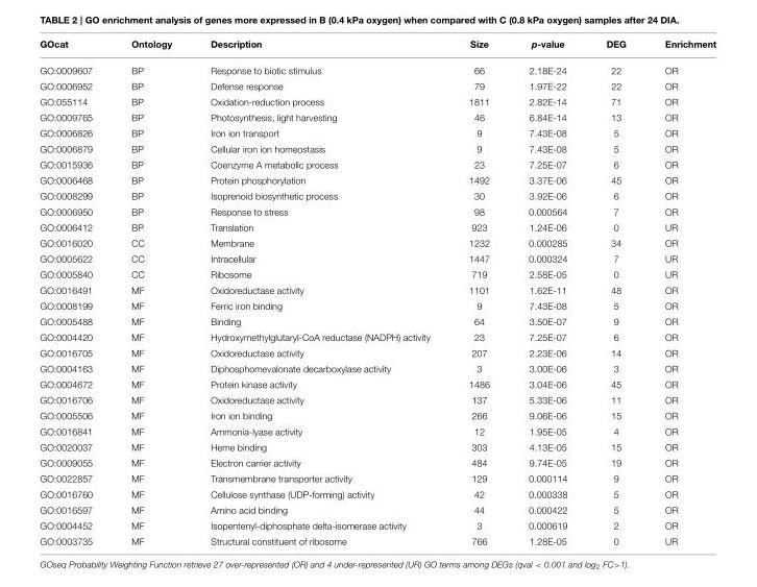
<table><thead><tr><td>GOcat</td><td>Ontology</td><td>Description</td><td>Size</td><td>p-value</td><td>DEG</td><td>Enrichment</td></tr></thead><tbody><tr><td>GO:0009607</td><td>BP</td><td>Response to biotic stimulus</td><td>66</td><td>2.18E-24</td><td>22</td><td>OR</td></tr><tr><td>GO:0006952</td><td>BP</td><td>Defense response</td><td>79</td><td>1.97E-22</td><td>22</td><td>OR</td></tr><tr><td>GO:055114</td><td>BP</td><td>Oxidation-reduction process</td><td>1811</td><td>2.82E-14</td><td>71</td><td>OR</td></tr><tr><td>GO:0009765</td><td>BP</td><td>Photosynthesis, light harvesting</td><td>46</td><td>6.84E-14</td><td>13</td><td>OR</td></tr><tr><td>GO:0006826</td><td>BP</td><td>Iron ion transport</td><td>9</td><td>7.43E-08</td><td>5</td><td>OR</td></tr><tr><td>GO:0006879</td><td>BP</td><td>Cellular iron ion homeostasis</td><td>9</td><td>7.43E-08</td><td>5</td><td>OR</td></tr><tr><td>GO:0015936</td><td>BP</td><td>Coenzyme A metabolic process</td><td>23</td><td>7.25E-07</td><td>6</td><td>OR</td></tr><tr><td>GO:0006468</td><td>BP</td><td>Protein phosphorylation</td><td>1492</td><td>3.37E-06</td><td>45</td><td>OR</td></tr><tr><td>GO:0008299</td><td>BP</td><td>Isoprenoid biosynthetic process</td><td>30</td><td>3.92E-06</td><td>6</td><td>OR</td></tr><tr><td>GO:0006950</td><td>BP</td><td>Response to stress</td><td>98</td><td>0.000564</td><td>7</td><td>OR</td></tr><tr><td>GO:0006412</td><td>BP</td><td>Translation</td><td>923</td><td>1.24E-06</td><td>0</td><td>UR</td></tr><tr><td>GO:0016020</td><td>CC</td><td>Membrane</td><td>1232</td><td>0.000285</td><td>34</td><td>OR</td></tr><tr><td>GO:0005622</td><td>CC</td><td>Intracellular</td><td>1447</td><td>0.000324</td><td>7</td><td>UR</td></tr><tr><td>GO:0005840</td><td>CC</td><td>Ribosome</td><td>719</td><td>2.58E-05</td><td>0</td><td>UR</td></tr><tr><td>GO:0016491</td><td>MF</td><td>Oxidoreductase activity</td><td>1101</td><td>1.62E-11</td><td>48</td><td>OR</td></tr><tr><td>GO:0008199</td><td>MF</td><td>Ferric iron binding</td><td>9</td><td>7.43E-08</td><td>5</td><td>OR</td></tr><tr><td>GO:0005488</td><td>MF</td><td>Binding</td><td>64</td><td>3.50E-07</td><td>9</td><td>OR</td></tr><tr><td>GO:0004420</td><td>MF</td><td>Hydroxymethylglutaryl-CoA reductase (NADPH) activity</td><td>23</td><td>7.25E-07</td><td>6</td><td>OR</td></tr><tr><td>GO:0016705</td><td>MF</td><td>Oxidoreductase activity</td><td>207</td><td>2.23E-06</td><td>14</td><td>OR</td></tr><tr><td>GO:0004163</td><td>MF</td><td>Diphosphomevalonate decarboxylase activity</td><td>3</td><td>3.00E-06</td><td>3</td><td>OR</td></tr><tr><td>GO:0004672</td><td>MF</td><td>Protein kinase activity</td><td>1486</td><td>3.04E-06</td><td>45</td><td>OR</td></tr><tr><td>GO:0016706</td><td>MF</td><td>Oxidoreductase activity</td><td>137</td><td>5.33E-06</td><td>11</td><td>OR</td></tr><tr><td>GO:0005506</td><td>MF</td><td>Iron ion binding</td><td>266</td><td>9.06E-06</td><td>15</td><td>OR</td></tr><tr><td>GO:0016841</td><td>MF</td><td>Ammonia-lyase activity</td><td>12</td><td>1.95E-05</td><td>4</td><td>OR</td></tr><tr><td>GO:0020037</td><td>MF</td><td>Heme binding</td><td>303</td><td>4.13E-05</td><td>15</td><td>OR</td></tr><tr><td>GO:0009055</td><td>MF</td><td>Electron carrier activity</td><td>484</td><td>9.74E-05</td><td>19</td><td>OR</td></tr><tr><td>GO:0022857</td><td>MF</td><td>Transmembrane transporter activity</td><td>129</td><td>0.000114</td><td>9</td><td>OR</td></tr><tr><td>GO:0016760</td><td>MF</td><td>Cellulose synthase (UDP-forming) activity</td><td>42</td><td>0.000338</td><td>5</td><td>OR</td></tr><tr><td>GO:0016597</td><td>MF</td><td>Amino acid binding</td><td>44</td><td>0.000422</td><td>5</td><td>OR</td></tr><tr><td>GO:0004452</td><td>MF</td><td>Isopentenyl-diphosphate delta-isomerase activity</td><td>3</td><td>0.000619</td><td>2</td><td>OR</td></tr><tr><td>GO:0003735</td><td>MF</td><td>Structural constituent of ribosome</td><td>766</td><td>1.28E-05</td><td>0</td><td>UR</td></tr></tbody></table>